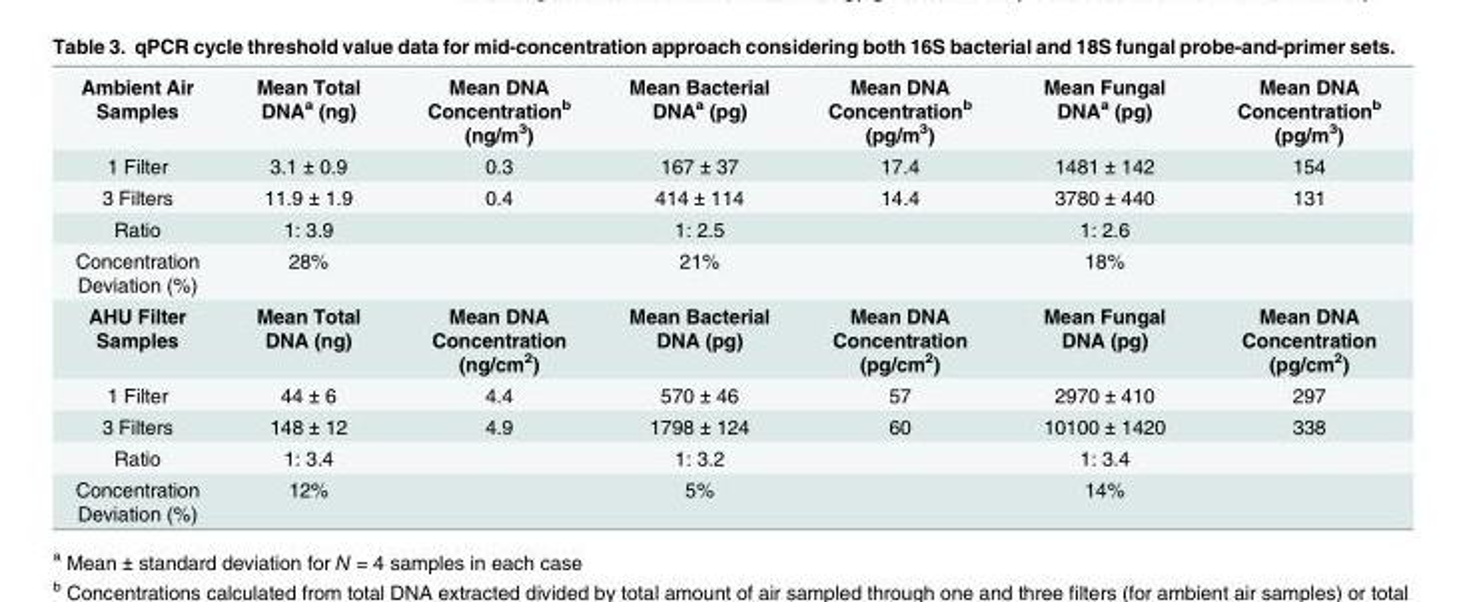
<table><tbody><tr><td>Ambient Air Samples</td><td>Mean Total DNA<sup>a</sup> (ng)</td><td>Mean DNA Concentration<sup>b</sup> (ng/m<sup>3</sup>)</td><td>Mean Bacterial DNA<sup>a</sup> (pg)</td><td>Mean DNA Concentration<sup>b</sup> (pg/m<sup>3</sup>)</td><td>Mean Fungal DNA<sup>a</sup> (pg)</td><td>Mean DNA Concentration<sup>b</sup> (pg/m<sup>3</sup>)</td></tr><tr><td>1 Filter</td><td>3.1 ± 0.9</td><td>0.3</td><td>167 ± 37</td><td>17.4</td><td>1481 ± 142</td><td>154</td></tr><tr><td>3 Filters</td><td>11.9 ± 1.9</td><td>0.4</td><td>414 ± 114</td><td>14.4</td><td>3780 ± 440</td><td>131</td></tr><tr><td>Ratio</td><td>1: 3.9</td><td></td><td>1: 2.5</td><td></td><td>1: 2.6</td><td></td></tr><tr><td>Concentration Deviation (%)</td><td>28%</td><td></td><td>21%</td><td></td><td>18%</td><td></td></tr><tr><td>AHU Filter Samples</td><td>Mean Total DNA (ng)</td><td>Mean DNA Concentration (ng/cm<sup>2</sup>)</td><td>Mean Bacterial DNA (pg)</td><td>Mean DNA Concentration (pg/cm<sup>2</sup>)</td><td>Mean Fungal DNA (pg)</td><td>Mean DNA Concentration (pg/cm<sup>2</sup>)</td></tr><tr><td>1 Filter</td><td>44 ± 6</td><td>4.4</td><td>570 ± 46</td><td>57</td><td>2970 ± 410</td><td>297</td></tr><tr><td>3 Filters</td><td>148 ± 12</td><td>4.9</td><td>1798 ± 124</td><td>60</td><td>10100 ± 1420</td><td>338</td></tr><tr><td>Ratio</td><td>1: 3.4</td><td></td><td>1: 3.2</td><td></td><td>1: 3.4</td><td></td></tr><tr><td>Concentration Deviation (%)</td><td>12%</td><td></td><td>5%</td><td></td><td>14%</td><td></td></tr></tbody></table>